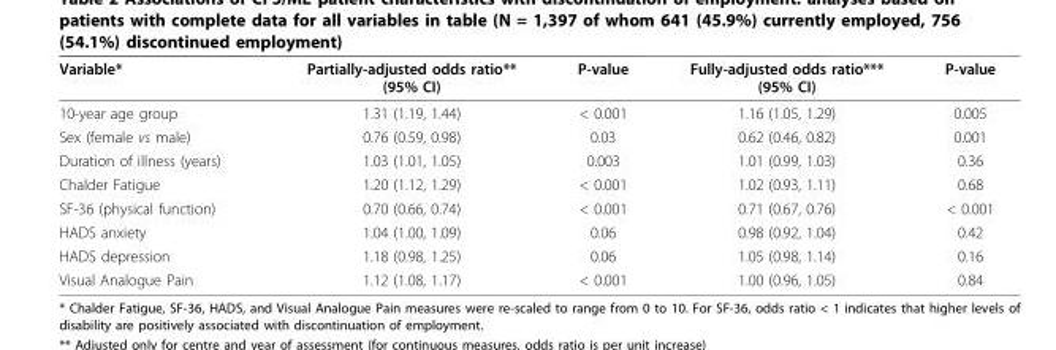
<table><thead><tr><td>Variable*</td><td>Partially-adjusted odds ratio** (95% CI)</td><td>P-value</td><td>Fully-adjusted odds ratio*** (95% CI)</td><td>P-value</td></tr></thead><tbody><tr><td>10-year age group</td><td>1.31 (1.19, 1.44)</td><td>&lt; 0.001</td><td>1.16 (1.05, 1.29)</td><td>0.005</td></tr><tr><td>Sex (female vs male)</td><td>0.76 (0.59, 0.98)</td><td>0.03</td><td>0.62 (0.46, 0.82)</td><td>0.001</td></tr><tr><td>Duration of illness (years)</td><td>1.03 (1.01, 1.05)</td><td>0.003</td><td>1.01 (0.99, 1.03)</td><td>0.36</td></tr><tr><td>Chalder Fatigue</td><td>1.20 (1.12, 1.29)</td><td>&lt; 0.001</td><td>1.02 (0.93, 1.11)</td><td>0.68</td></tr><tr><td>SF-36 (physical function)</td><td>0.70 (0.66, 0.74)</td><td>&lt; 0.001</td><td>0.71 (0.67, 0.76)</td><td>&lt; 0.001</td></tr><tr><td>HADS anxiety</td><td>1.04 (1.00, 1.09)</td><td>0.06</td><td>0.98 (0.92, 1.04)</td><td>0.42</td></tr><tr><td>HADS depression</td><td>1.18 (0.98, 1.25)</td><td>0.06</td><td>1.05 (0.98, 1.14)</td><td>0.16</td></tr><tr><td>Visual Analogue Pain</td><td>1.12 (1.08, 1.17)</td><td>&lt; 0.001</td><td>1.00 (0.96, 1.05)</td><td>0.84</td></tr></tbody></table>